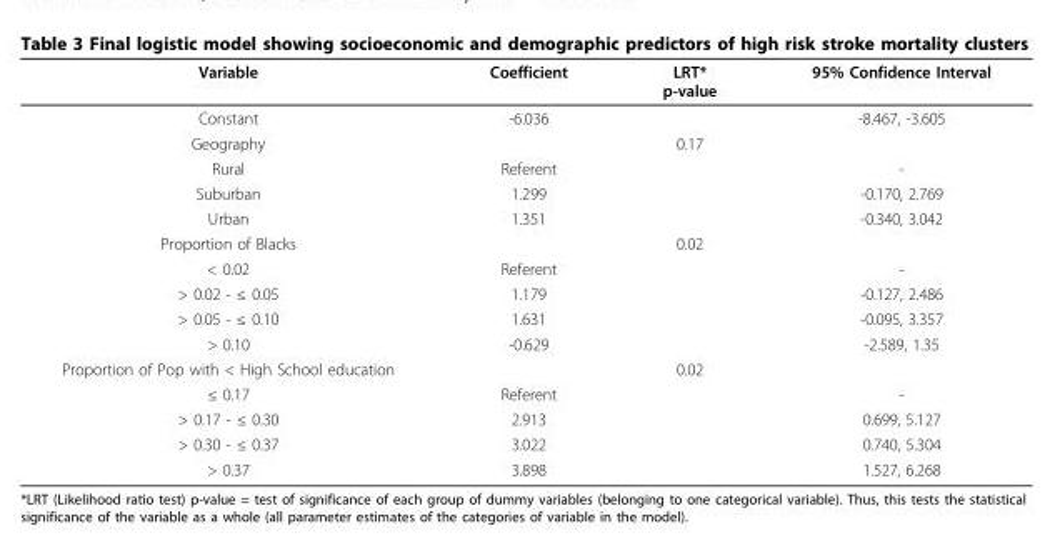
<table><thead><tr><td>Variable</td><td>Coefficient</td><td>LRT* p-value</td><td>95% Confidence Interval</td></tr></thead><tbody><tr><td>Constant</td><td>-6.036</td><td></td><td>-8.467, -3.605</td></tr><tr><td>Geography</td><td></td><td>0.17</td><td></td></tr><tr><td>Rural</td><td>Referent</td><td></td><td>-</td></tr><tr><td>Suburban</td><td>1.299</td><td></td><td>-0.170, 2.769</td></tr><tr><td>Urban</td><td>1.351</td><td></td><td>-0.340, 3.042</td></tr><tr><td>Proportion of Blacks</td><td></td><td>0.02</td><td></td></tr><tr><td>&lt; 0.02</td><td>Referent</td><td></td><td>-</td></tr><tr><td>&gt; 0.02 - ≤ 0.05</td><td>1.179</td><td></td><td>-0.127, 2.486</td></tr><tr><td>&gt; 0.05 - ≤ 0.10</td><td>1.631</td><td></td><td>-0.095, 3.357</td></tr><tr><td>&gt; 0.10</td><td>-0.629</td><td></td><td>-2.589, 1.35</td></tr><tr><td>Proportion of Pop with &lt; High School education</td><td></td><td>0.02</td><td></td></tr><tr><td>≤ 0.17</td><td>Referent</td><td></td><td>-</td></tr><tr><td>&gt; 0.17 - ≤ 0.30</td><td>2.913</td><td></td><td>0.699, 5.127</td></tr><tr><td>&gt; 0.30 - ≤ 0.37</td><td>3.022</td><td></td><td>0.740, 5.304</td></tr><tr><td>&gt; 0.37</td><td>3.898</td><td></td><td>1.527, 6.268</td></tr></tbody></table>